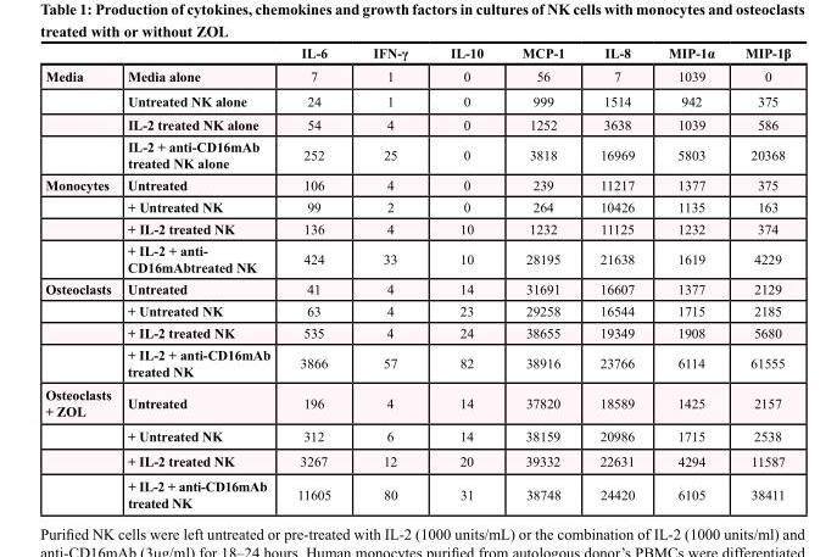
<table><thead><tr><td></td><td></td><td>IL-6</td><td>IFN-γ</td><td>IL-10</td><td>MCP-1</td><td>IL-8</td><td>MIP-1α</td><td>MIP-1β</td></tr></thead><tbody><tr><td rowspan="4">Media</td><td>Media alone</td><td>7</td><td>1</td><td>0</td><td>56</td><td>7</td><td>1039</td><td>0</td></tr><tr><td>Untreated NK alone</td><td>24</td><td>1</td><td>0</td><td>999</td><td>1514</td><td>942</td><td>375</td></tr><tr><td>IL-2 treated NK alone</td><td>54</td><td>4</td><td>0</td><td>1252</td><td>3638</td><td>1039</td><td>586</td></tr><tr><td>IL-2 + anti-CD16mAb treated NK alone</td><td>252</td><td>25</td><td>0</td><td>3818</td><td>16969</td><td>5803</td><td>20368</td></tr><tr><td rowspan="4">Monocytes</td><td>Untreated</td><td>106</td><td>4</td><td>0</td><td>239</td><td>11217</td><td>1377</td><td>375</td></tr><tr><td>+ Untreated NK</td><td>99</td><td>2</td><td>0</td><td>264</td><td>10426</td><td>1135</td><td>163</td></tr><tr><td>+ IL-2 treated NK</td><td>136</td><td>4</td><td>10</td><td>1232</td><td>11125</td><td>1232</td><td>374</td></tr><tr><td>+ IL-2 + anti- CD16mAbtreated NK</td><td>424</td><td>33</td><td>10</td><td>28195</td><td>21638</td><td>1619</td><td>4229</td></tr><tr><td rowspan="4">Osteoclasts</td><td>Untreated</td><td>41</td><td>4</td><td>14</td><td>31691</td><td>16607</td><td>1377</td><td>2129</td></tr><tr><td>+ Untreated NK</td><td>63</td><td>4</td><td>23</td><td>29258</td><td>16544</td><td>1715</td><td>2185</td></tr><tr><td>+ IL-2 treated NK</td><td>535</td><td>4</td><td>24</td><td>38655</td><td>19349</td><td>1908</td><td>5680</td></tr><tr><td>+ IL-2 + anti-CD16mAb treated NK</td><td>3866</td><td>57</td><td>82</td><td>38916</td><td>23766</td><td>6114</td><td>61555</td></tr><tr><td rowspan="4">Osteoclasts + ZOL</td><td>Untreated</td><td>196</td><td>4</td><td>14</td><td>37820</td><td>18589</td><td>1425</td><td>2157</td></tr><tr><td>+ Untreated NK</td><td>312</td><td>6</td><td>14</td><td>38159</td><td>20986</td><td>1715</td><td>2538</td></tr><tr><td>+ IL-2 treated NK</td><td>3267</td><td>12</td><td>20</td><td>39332</td><td>22631</td><td>4294</td><td>11587</td></tr><tr><td>+ IL-2 + anti-CD16mAb treated NK</td><td>11605</td><td>80</td><td>31</td><td>38748</td><td>24420</td><td>6105</td><td>38411</td></tr></tbody></table>